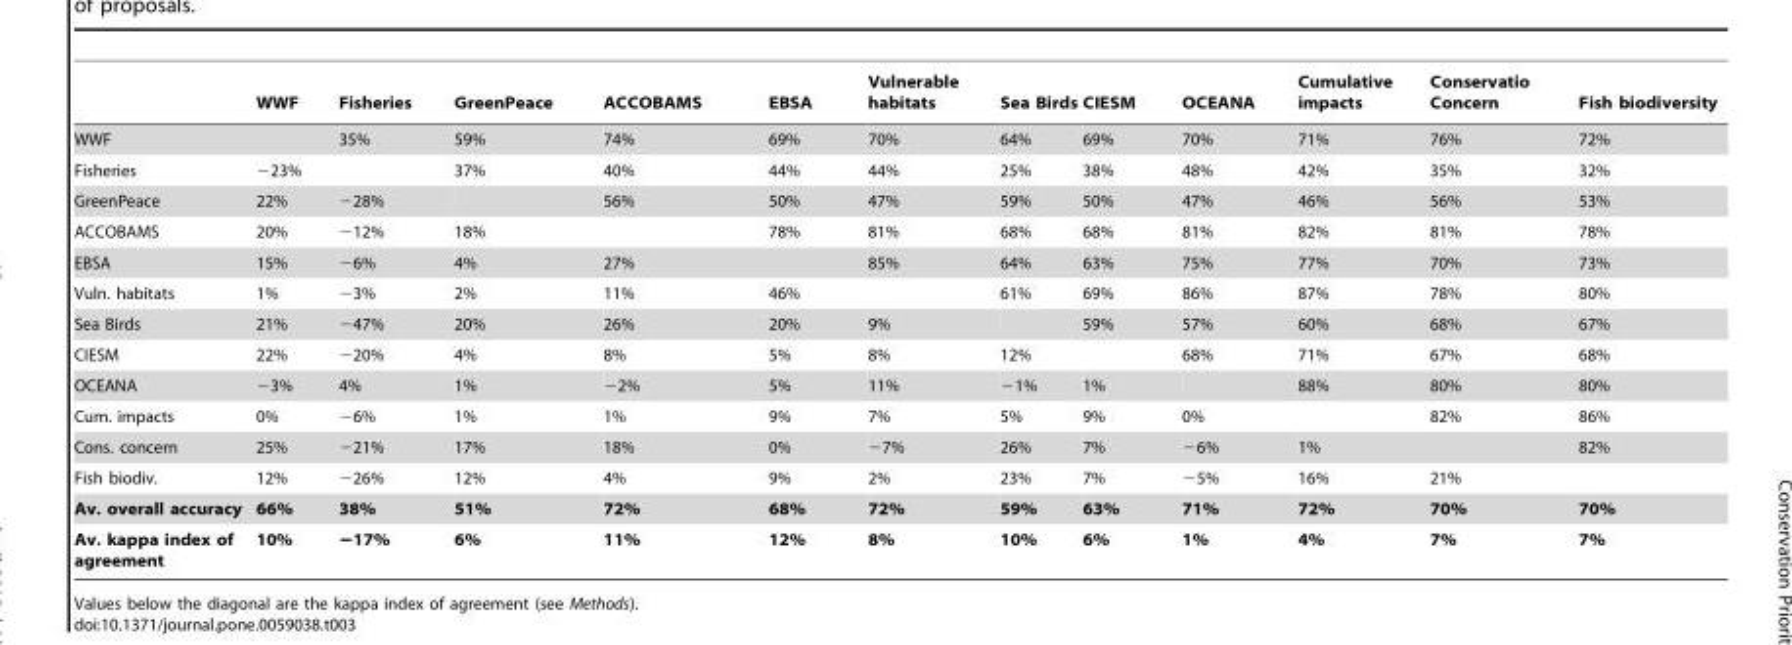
<table><thead><tr><td></td><td>WWF</td><td>Fisheries</td><td>GreenPeace</td><td>ACCOBAMS</td><td>EBSA</td><td>Vulnerable habitats</td><td>Sea Birds</td><td>CIESM</td><td>OCEANA</td><td>Cumulative impacts</td><td>Conservatio Concern</td><td>Fish biodiversity</td></tr></thead><tbody><tr><td>WWF</td><td></td><td>35%</td><td>59%</td><td>74%</td><td>69%</td><td>70%</td><td>64%</td><td>69%</td><td>70%</td><td>71%</td><td>76%</td><td>72%</td></tr><tr><td>Fisheries</td><td>−23%</td><td></td><td>37%</td><td>40%</td><td>44%</td><td>44%</td><td>25%</td><td>38%</td><td>48%</td><td>42%</td><td>35%</td><td>32%</td></tr><tr><td>GreenPeace</td><td>22%</td><td>−28%</td><td></td><td>56%</td><td>50%</td><td>47%</td><td>59%</td><td>50%</td><td>47%</td><td>46%</td><td>56%</td><td>53%</td></tr><tr><td>ACCOBAMS</td><td>20%</td><td>−12%</td><td>18%</td><td></td><td>78%</td><td>81%</td><td>68%</td><td>68%</td><td>81%</td><td>82%</td><td>81%</td><td>78%</td></tr><tr><td>EBSA</td><td>15%</td><td>−6%</td><td>4%</td><td>27%</td><td></td><td>85%</td><td>64%</td><td>63%</td><td>75%</td><td>77%</td><td>70%</td><td>73%</td></tr><tr><td>Vuln. habitats</td><td>1%</td><td>−3%</td><td>2%</td><td>11%</td><td>46%</td><td></td><td>61%</td><td>69%</td><td>86%</td><td>87%</td><td>78%</td><td>80%</td></tr><tr><td>Sea Birds</td><td>21%</td><td>−47%</td><td>20%</td><td>26%</td><td>20%</td><td>9%</td><td></td><td>59%</td><td>57%</td><td>60%</td><td>68%</td><td>67%</td></tr><tr><td>CIESM</td><td>22%</td><td>−20%</td><td>4%</td><td>8%</td><td>5%</td><td>8%</td><td>12%</td><td></td><td>68%</td><td>71%</td><td>67%</td><td>68%</td></tr><tr><td>OCEANA</td><td>−3%</td><td>4%</td><td>1%</td><td>−2%</td><td>5%</td><td>11%</td><td>−1%</td><td>1%</td><td></td><td>88%</td><td>80%</td><td>80%</td></tr><tr><td>Cum. impacts</td><td>0%</td><td>−6%</td><td>1%</td><td>1%</td><td>9%</td><td>7%</td><td>5%</td><td>9%</td><td>0%</td><td></td><td>82%</td><td>86%</td></tr><tr><td>Cons. concern</td><td>25%</td><td>−21%</td><td>17%</td><td>18%</td><td>0%</td><td>−7%</td><td>26%</td><td>7%</td><td>−6%</td><td>1%</td><td></td><td>82%</td></tr><tr><td>Fish biodiv.</td><td>12%</td><td>−26%</td><td>12%</td><td>4%</td><td>9%</td><td>2%</td><td>23%</td><td>7%</td><td>−5%</td><td>16%</td><td>21%</td><td></td></tr><tr><td>Av. overall accuracy</td><td>66%</td><td>38%</td><td>51%</td><td>72%</td><td>68%</td><td>72%</td><td>59%</td><td>63%</td><td>71%</td><td>72%</td><td>70%</td><td>70%</td></tr><tr><td>Av. kappa index of agreement</td><td>10%</td><td>−17%</td><td>6%</td><td>11%</td><td>12%</td><td>8%</td><td>10%</td><td>6%</td><td>1%</td><td>4%</td><td>7%</td><td>7%</td></tr></tbody></table>